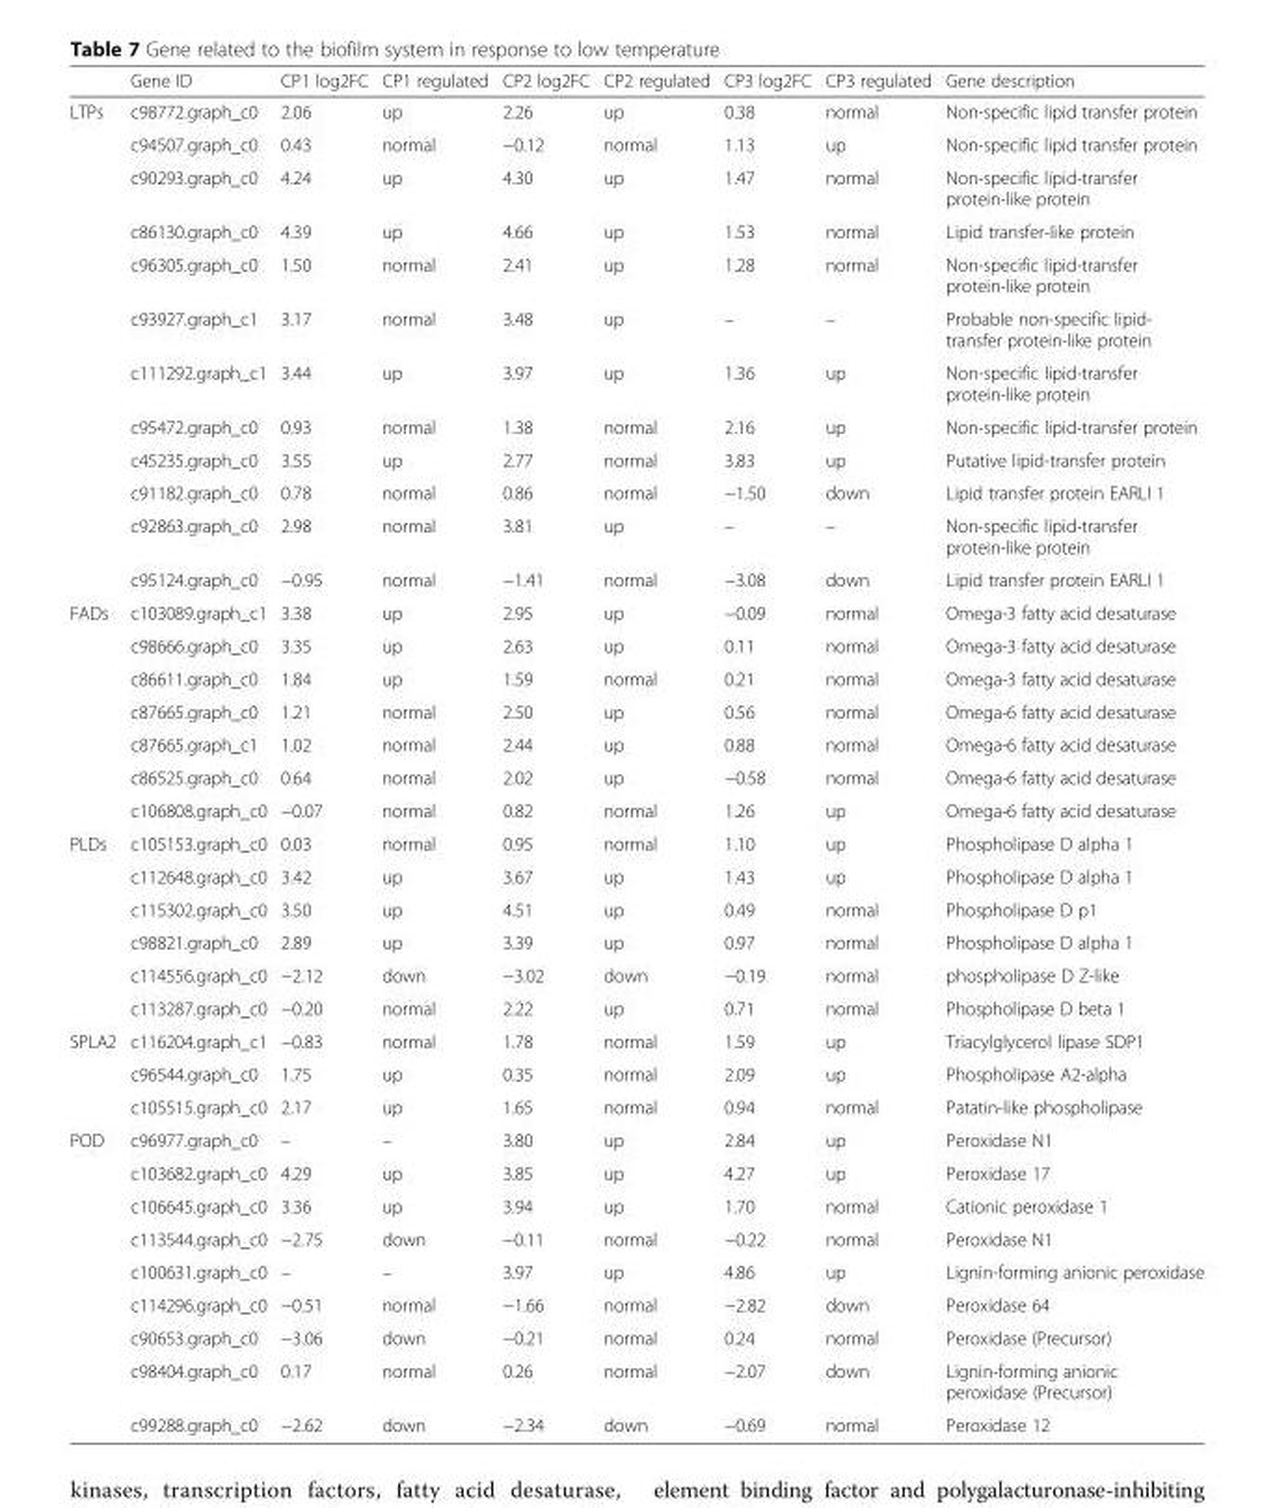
<table><thead><tr><td></td><td>Gene ID</td><td>CP1 log2FC</td><td>CP1 regulated</td><td>CP2 log2FC</td><td>CP2 regulated</td><td>CP3 log2FC</td><td>CP3 regulated</td><td>Gene description</td></tr></thead><tbody><tr><td rowspan="12">LTPs</td><td>c98772.graph_c0</td><td>2.06</td><td>up</td><td>2.26</td><td>up</td><td>0.38</td><td>normal</td><td>Non-specific lipid transfer protein</td></tr><tr><td>c94507.graph_c0</td><td>0.43</td><td>normal</td><td>−0.12</td><td>normal</td><td>1.13</td><td>up</td><td>Non-specific lipid transfer protein</td></tr><tr><td>c90293.graph_c0</td><td>4.24</td><td>up</td><td>4.30</td><td>up</td><td>1.47</td><td>normal</td><td>Non-specific lipid-transfer protein-like protein</td></tr><tr><td>c86130.graph_c0</td><td>4.39</td><td>up</td><td>4.66</td><td>up</td><td>1.53</td><td>normal</td><td>Lipid transfer-like protein</td></tr><tr><td>c96305.graph_c0</td><td>1.50</td><td>normal</td><td>2.41</td><td>up</td><td>1.28</td><td>normal</td><td>Non-specific lipid-transfer protein-like protein</td></tr><tr><td>c93927.graph_c1</td><td>3.17</td><td>normal</td><td>3.48</td><td>up</td><td>–</td><td>–</td><td>Probable non-specific lipid- transfer protein-like protein</td></tr><tr><td>c111292.graph_c1</td><td>3.44</td><td>up</td><td>3.97</td><td>up</td><td>1.36</td><td>up</td><td>Non-specific lipid-transfer protein-like protein</td></tr><tr><td>c95472.graph_c0</td><td>0.93</td><td>normal</td><td>1.38</td><td>normal</td><td>2.16</td><td>up</td><td>Non-specific lipid-transfer protein</td></tr><tr><td>c45235.graph_c0</td><td>3.55</td><td>up</td><td>2.77</td><td>normal</td><td>3.83</td><td>up</td><td>Putative lipid-transfer protein</td></tr><tr><td>c91182.graph_c0</td><td>0.78</td><td>normal</td><td>0.86</td><td>normal</td><td>−1.50</td><td>down</td><td>Lipid transfer protein EARLI 1</td></tr><tr><td>c92863.graph_c0</td><td>2.98</td><td>normal</td><td>3.81</td><td>up</td><td>–</td><td>–</td><td>Non-specific lipid-transfer protein-like protein</td></tr><tr><td>c95124.graph_c0</td><td>−0.95</td><td>normal</td><td>−1.41</td><td>normal</td><td>−3.08</td><td>down</td><td>Lipid transfer protein EARLI 1</td></tr><tr><td rowspan="7">FADs</td><td>c103089.graph_c1</td><td>3.38</td><td>up</td><td>2.95</td><td>up</td><td>−0.09</td><td>normal</td><td>Omega-3 fatty acid desaturase</td></tr><tr><td>c98666.graph_c0</td><td>3.35</td><td>up</td><td>2.63</td><td>up</td><td>0.11</td><td>normal</td><td>Omega-3 fatty acid desaturase</td></tr><tr><td>c86611.graph_c0</td><td>1.84</td><td>up</td><td>1.59</td><td>normal</td><td>0.21</td><td>normal</td><td>Omega-3 fatty acid desaturase</td></tr><tr><td>c87665.graph_c0</td><td>1.21</td><td>normal</td><td>2.50</td><td>up</td><td>0.56</td><td>normal</td><td>Omega-6 fatty acid desaturase</td></tr><tr><td>c87665.graph_c1</td><td>1.02</td><td>normal</td><td>2.44</td><td>up</td><td>0.88</td><td>normal</td><td>Omega-6 fatty acid desaturase</td></tr><tr><td>c86525.graph_c0</td><td>0.64</td><td>normal</td><td>2.02</td><td>up</td><td>−0.58</td><td>normal</td><td>Omega-6 fatty acid desaturase</td></tr><tr><td>c106808.graph_c0</td><td>−0.07</td><td>normal</td><td>0.82</td><td>normal</td><td>1.26</td><td>up</td><td>Omega-6 fatty acid desaturase</td></tr><tr><td rowspan="6">PLDs</td><td>c105153.graph_c0</td><td>0.03</td><td>normal</td><td>0.95</td><td>normal</td><td>1.10</td><td>up</td><td>Phospholipase D alpha 1</td></tr><tr><td>c112648.graph_c0</td><td>3.42</td><td>up</td><td>3.67</td><td>up</td><td>1.43</td><td>up</td><td>Phospholipase D alpha 1</td></tr><tr><td>c115302.graph_c0</td><td>3.50</td><td>up</td><td>4.51</td><td>up</td><td>0.49</td><td>normal</td><td>Phospholipase D p1</td></tr><tr><td>c98821.graph_c0</td><td>2.89</td><td>up</td><td>3.39</td><td>up</td><td>0.97</td><td>normal</td><td>Phospholipase D alpha 1</td></tr><tr><td>c114556.graph_c0</td><td>−2.12</td><td>down</td><td>−3.02</td><td>down</td><td>−0.19</td><td>normal</td><td>phospholipase D Z-like</td></tr><tr><td>c113287.graph_c0</td><td>−0.20</td><td>normal</td><td>2.22</td><td>up</td><td>0.71</td><td>normal</td><td>Phospholipase D beta 1</td></tr><tr><td rowspan="3">SPLA2</td><td>c116204.graph_c1</td><td>−0.83</td><td>normal</td><td>1.78</td><td>normal</td><td>1.59</td><td>up</td><td>Triacylglycerol lipase SDP1</td></tr><tr><td>c96544.graph_c0</td><td>1.75</td><td>up</td><td>0.35</td><td>normal</td><td>2.09</td><td>up</td><td>Phospholipase A2-alpha</td></tr><tr><td>c105515.graph_c0</td><td>2.17</td><td>up</td><td>1.65</td><td>normal</td><td>0.94</td><td>normal</td><td>Patatin-like phospholipase</td></tr><tr><td rowspan="9">POD</td><td>c96977.graph_c0</td><td>–</td><td>–</td><td>3.80</td><td>up</td><td>2.84</td><td>up</td><td>Peroxidase N1</td></tr><tr><td>c103682.graph_c0</td><td>4.29</td><td>up</td><td>3.85</td><td>up</td><td>4.27</td><td>up</td><td>Peroxidase 17</td></tr><tr><td>c106645.graph_c0</td><td>3.36</td><td>up</td><td>3.94</td><td>up</td><td>1.70</td><td>normal</td><td>Cationic peroxidase 1</td></tr><tr><td>c113544.graph_c0</td><td>−2.75</td><td>down</td><td>−0.11</td><td>normal</td><td>−0.22</td><td>normal</td><td>Peroxidase N1</td></tr><tr><td>c100631.graph_c0</td><td>–</td><td>–</td><td>3.97</td><td>up</td><td>4.86</td><td>up</td><td>Lignin-forming anionic peroxidase</td></tr><tr><td>c114296.graph_c0</td><td>−0.51</td><td>normal</td><td>−1.66</td><td>normal</td><td>−2.82</td><td>down</td><td>Peroxidase 64</td></tr><tr><td>c90653.graph_c0</td><td>−3.06</td><td>down</td><td>−0.21</td><td>normal</td><td>0.24</td><td>normal</td><td>Peroxidase (Precursor)</td></tr><tr><td>c98404.graph_c0</td><td>0.17</td><td>normal</td><td>0.26</td><td>normal</td><td>−2.07</td><td>down</td><td>Lignin-forming anionic peroxidase (Precursor)</td></tr><tr><td>c99288.graph_c0</td><td>−2.62</td><td>down</td><td>−2.34</td><td>down</td><td>−0.69</td><td>normal</td><td>Peroxidase 12</td></tr></tbody></table>